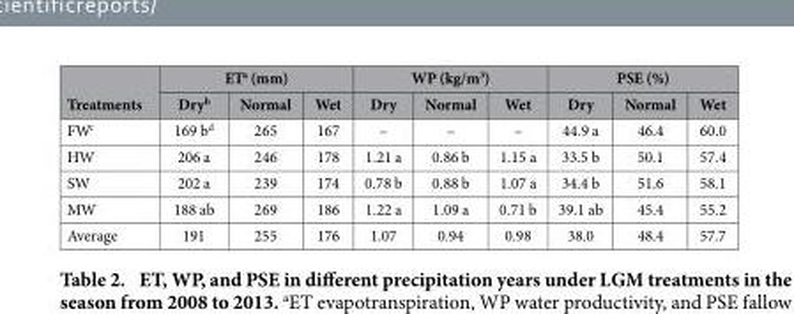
<table><thead><tr><td rowspan="2">Treatments</td><td colspan="3">ET<sup>a</sup> (mm)</td><td colspan="3">WP (kg/m<sup>3</sup>)</td><td colspan="3">PSE (%)</td></tr><tr><td>Dry<sup>b</sup></td><td>Normal</td><td>Wet</td><td>Dry</td><td>Normal</td><td>Wet</td><td>Dry</td><td>Normal</td><td>Wet</td></tr></thead><tbody><tr><td>FW<sup>c</sup></td><td>169 b<sup>d</sup></td><td>265</td><td>167</td><td>–</td><td>–</td><td>–</td><td>44.9 a</td><td>46.4</td><td>60.0</td></tr><tr><td>HW</td><td>206 a</td><td>246</td><td>178</td><td>1.21 a</td><td>0.86 b</td><td>1.15 a</td><td>33.5 b</td><td>50.1</td><td>57.4</td></tr><tr><td>SW</td><td>202 a</td><td>239</td><td>174</td><td>0.78 b</td><td>0.88 b</td><td>1.07 a</td><td>34.4 b</td><td>51.6</td><td>58.1</td></tr><tr><td>MW</td><td>188 ab</td><td>269</td><td>186</td><td>1.22 a</td><td>1.09 a</td><td>0.71 b</td><td>39.1 ab</td><td>45.4</td><td>55.2</td></tr><tr><td>Average</td><td>191</td><td>255</td><td>176</td><td>1.07</td><td>0.94</td><td>0.98</td><td>38.0</td><td>48.4</td><td>57.7</td></tr></tbody></table>